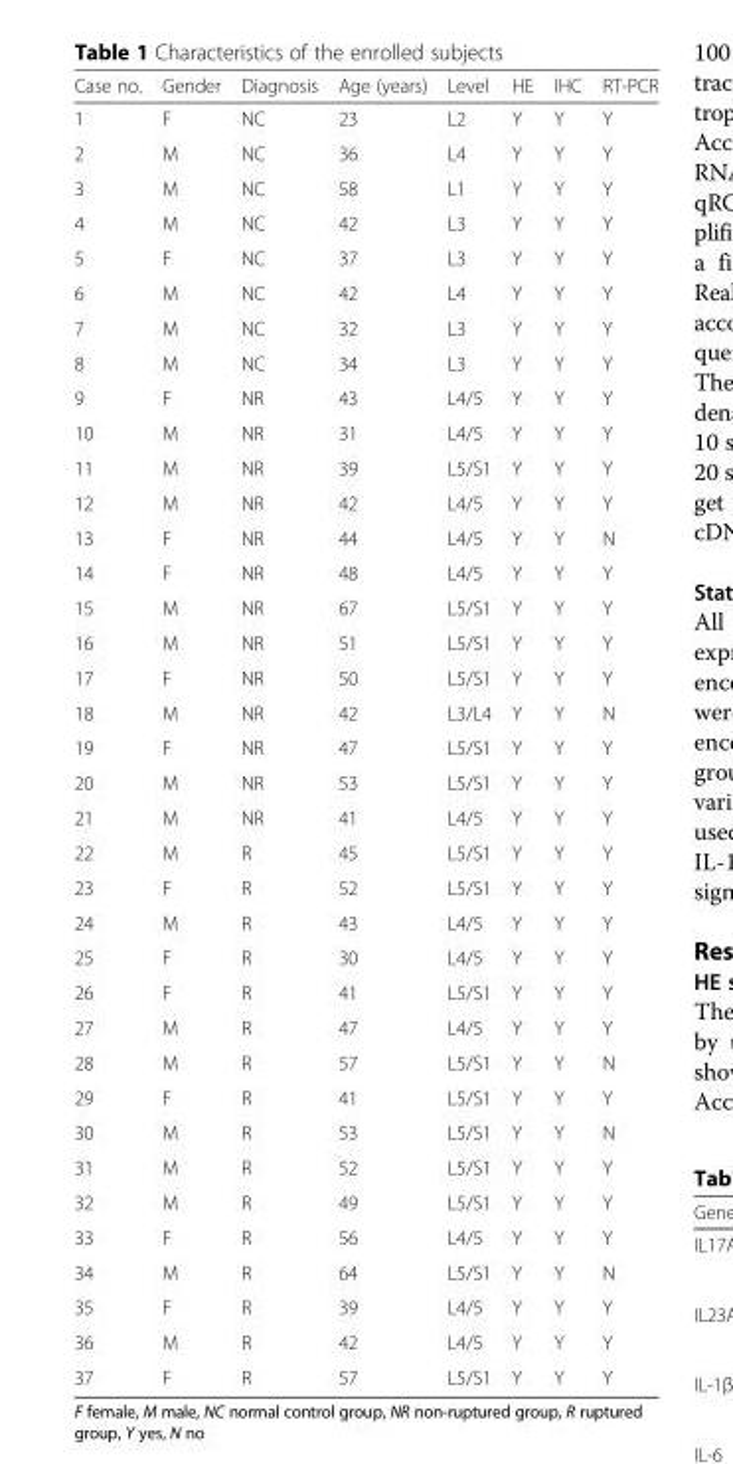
<table><thead><tr><td>Case no.</td><td>Gender</td><td>Diagnosis</td><td>Age (years)</td><td>Level</td><td>HE</td><td>IHC</td><td>RT-PCR</td></tr></thead><tbody><tr><td>1</td><td>F</td><td>NC</td><td>23</td><td>L2</td><td>Y</td><td>Y</td><td>Y</td></tr><tr><td>2</td><td>M</td><td>NC</td><td>36</td><td>L4</td><td>Y</td><td>Y</td><td>Y</td></tr><tr><td>3</td><td>M</td><td>NC</td><td>58</td><td>L1</td><td>Y</td><td>Y</td><td>Y</td></tr><tr><td>4</td><td>M</td><td>NC</td><td>42</td><td>L3</td><td>Y</td><td>Y</td><td>Y</td></tr><tr><td>5</td><td>F</td><td>NC</td><td>37</td><td>L3</td><td>Y</td><td>Y</td><td>Y</td></tr><tr><td>6</td><td>M</td><td>NC</td><td>42</td><td>L4</td><td>Y</td><td>Y</td><td>Y</td></tr><tr><td>7</td><td>M</td><td>NC</td><td>32</td><td>L3</td><td>Y</td><td>Y</td><td>Y</td></tr><tr><td>8</td><td>M</td><td>NC</td><td>34</td><td>L3</td><td>Y</td><td>Y</td><td>Y</td></tr><tr><td>9</td><td>F</td><td>NR</td><td>43</td><td>L4/5</td><td>Y</td><td>Y</td><td>Y</td></tr><tr><td>10</td><td>M</td><td>NR</td><td>31</td><td>L4/5</td><td>Y</td><td>Y</td><td>Y</td></tr><tr><td>11</td><td>M</td><td>NR</td><td>39</td><td>L5/S1</td><td>Y</td><td>Y</td><td>Y</td></tr><tr><td>12</td><td>M</td><td>NR</td><td>42</td><td>L4/5</td><td>Y</td><td>Y</td><td>Y</td></tr><tr><td>13</td><td>F</td><td>NR</td><td>44</td><td>L4/5</td><td>Y</td><td>Y</td><td>N</td></tr><tr><td>14</td><td>F</td><td>NR</td><td>48</td><td>L4/5</td><td>Y</td><td>Y</td><td>Y</td></tr><tr><td>15</td><td>M</td><td>NR</td><td>67</td><td>L5/S1</td><td>Y</td><td>Y</td><td>Y</td></tr><tr><td>16</td><td>M</td><td>NR</td><td>51</td><td>L5/S1</td><td>Y</td><td>Y</td><td>Y</td></tr><tr><td>17</td><td>F</td><td>NR</td><td>50</td><td>L5/S1</td><td>Y</td><td>Y</td><td>Y</td></tr><tr><td>18</td><td>M</td><td>NR</td><td>42</td><td>L3/L4</td><td>Y</td><td>Y</td><td>N</td></tr><tr><td>19</td><td>F</td><td>NR</td><td>47</td><td>L5/S1</td><td>Y</td><td>Y</td><td>Y</td></tr><tr><td>20</td><td>M</td><td>NR</td><td>53</td><td>L5/S1</td><td>Y</td><td>Y</td><td>Y</td></tr><tr><td>21</td><td>M</td><td>NR</td><td>41</td><td>L4/5</td><td>Y</td><td>Y</td><td>Y</td></tr><tr><td>22</td><td>M</td><td>R</td><td>45</td><td>L5/S1</td><td>Y</td><td>Y</td><td>Y</td></tr><tr><td>23</td><td>F</td><td>R</td><td>52</td><td>L5/S1</td><td>Y</td><td>Y</td><td>Y</td></tr><tr><td>24</td><td>M</td><td>R</td><td>43</td><td>L4/5</td><td>Y</td><td>Y</td><td>Y</td></tr><tr><td>25</td><td>F</td><td>R</td><td>30</td><td>L4/5</td><td>Y</td><td>Y</td><td>Y</td></tr><tr><td>26</td><td>F</td><td>R</td><td>41</td><td>L5/S1</td><td>Y</td><td>Y</td><td>Y</td></tr><tr><td>27</td><td>M</td><td>R</td><td>47</td><td>L4/5</td><td>Y</td><td>Y</td><td>Y</td></tr><tr><td>28</td><td>M</td><td>R</td><td>57</td><td>L5/S1</td><td>Y</td><td>Y</td><td>N</td></tr><tr><td>29</td><td>F</td><td>R</td><td>41</td><td>L5/S1</td><td>Y</td><td>Y</td><td>Y</td></tr><tr><td>30</td><td>M</td><td>R</td><td>53</td><td>L5/S1</td><td>Y</td><td>Y</td><td>N</td></tr><tr><td>31</td><td>M</td><td>R</td><td>52</td><td>L5/S1</td><td>Y</td><td>Y</td><td>Y</td></tr><tr><td>32</td><td>M</td><td>R</td><td>49</td><td>L5/S1</td><td>Y</td><td>Y</td><td>Y</td></tr><tr><td>33</td><td>F</td><td>R</td><td>56</td><td>L4/5</td><td>Y</td><td>Y</td><td>Y</td></tr><tr><td>34</td><td>M</td><td>R</td><td>64</td><td>L5/S1</td><td>Y</td><td>Y</td><td>N</td></tr><tr><td>35</td><td>F</td><td>R</td><td>39</td><td>L4/5</td><td>Y</td><td>Y</td><td>Y</td></tr><tr><td>36</td><td>M</td><td>R</td><td>42</td><td>L4/5</td><td>Y</td><td>Y</td><td>Y</td></tr><tr><td>37</td><td>F</td><td>R</td><td>57</td><td>L5/S1</td><td>Y</td><td>Y</td><td>Y</td></tr></tbody></table>